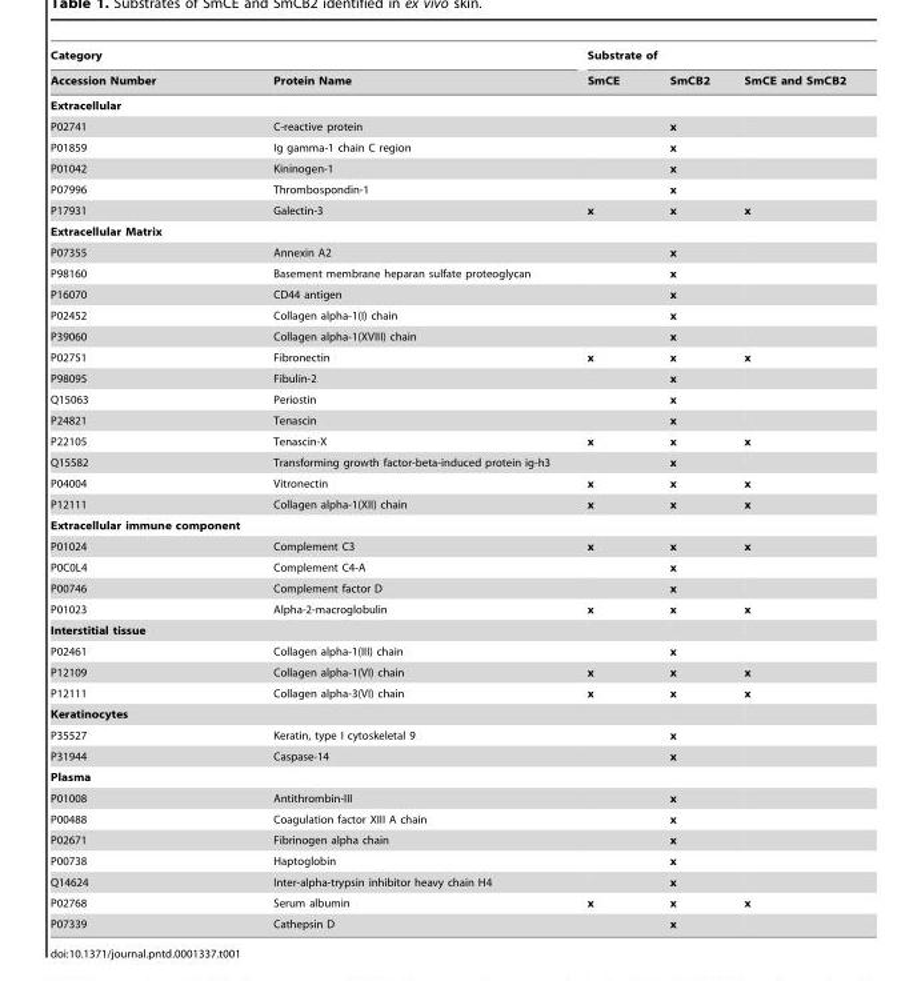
<table><thead><tr><td colspan="2">Category</td><td colspan="3">Substrate of</td></tr><tr><td>Accession Number</td><td>Protein Name</td><td>SmCE</td><td>SmCB2</td><td>SmCE and SmCB2</td></tr></thead><tbody><tr><td colspan="5">Extracellular</td></tr><tr><td>P02741</td><td>C-reactive protein</td><td></td><td>x</td><td></td></tr><tr><td>P01859</td><td>Ig gamma-1 chain C region</td><td></td><td>x</td><td></td></tr><tr><td>P01042</td><td>Kininogen-1</td><td></td><td>x</td><td></td></tr><tr><td>P07996</td><td>Thrombospondin-1</td><td></td><td>x</td><td></td></tr><tr><td>P17931</td><td>Galectin-3</td><td>x</td><td>x</td><td>x</td></tr><tr><td colspan="5">Extracellular Matrix</td></tr><tr><td>P07355</td><td>Annexin A2</td><td></td><td>x</td><td></td></tr><tr><td>P98160</td><td>Basement membrane heparan sulfate proteoglycan</td><td></td><td>x</td><td></td></tr><tr><td>P16070</td><td>CD44 antigen</td><td></td><td>x</td><td></td></tr><tr><td>P02452</td><td>Collagen alpha-1(I) chain</td><td></td><td>x</td><td></td></tr><tr><td>P39060</td><td>Collagen alpha-1(XVIII) chain</td><td></td><td>x</td><td></td></tr><tr><td>P02751</td><td>Fibronectin</td><td>x</td><td>x</td><td>x</td></tr><tr><td>P98095</td><td>Fibulin-2</td><td></td><td>x</td><td></td></tr><tr><td>Q15063</td><td>Periostin</td><td></td><td>x</td><td></td></tr><tr><td>P24821</td><td>Tenascin</td><td></td><td>x</td><td></td></tr><tr><td>P22105</td><td>Tenascin-X</td><td>x</td><td>x</td><td>x</td></tr><tr><td>Q15582</td><td>Transforming growth factor-beta-induced protein ig-h3</td><td></td><td>x</td><td></td></tr><tr><td>P04004</td><td>Vitronectin</td><td>x</td><td>x</td><td>x</td></tr><tr><td>P12111</td><td>Collagen alpha-1(XII) chain</td><td>x</td><td>x</td><td>x</td></tr><tr><td colspan="5">Extracellular immune component</td></tr><tr><td>P01024</td><td>Complement C3</td><td>x</td><td>x</td><td>x</td></tr><tr><td>P0C0L4</td><td>Complement C4-A</td><td></td><td>x</td><td></td></tr><tr><td>P00746</td><td>Complement factor D</td><td></td><td>x</td><td></td></tr><tr><td>P01023</td><td>Alpha-2-macroglobulin</td><td>x</td><td>x</td><td>x</td></tr><tr><td colspan="5">Interstitial tissue</td></tr><tr><td>P02461</td><td>Collagen alpha-1(III) chain</td><td></td><td>x</td><td></td></tr><tr><td>P12109</td><td>Collagen alpha-1(VI) chain</td><td>x</td><td>x</td><td>x</td></tr><tr><td>P12111</td><td>Collagen alpha-3(VI) chain</td><td>x</td><td>x</td><td>x</td></tr><tr><td colspan="5">Keratinocytes</td></tr><tr><td>P35527</td><td>Keratin, type I cytoskeletal 9</td><td></td><td>x</td><td></td></tr><tr><td>P31944</td><td>Caspase-14</td><td></td><td>x</td><td></td></tr><tr><td colspan="5">Plasma</td></tr><tr><td>P01008</td><td>Antithrombin-III</td><td></td><td>x</td><td></td></tr><tr><td>P00488</td><td>Coagulation factor XIII A chain</td><td></td><td>x</td><td></td></tr><tr><td>P02671</td><td>Fibrinogen alpha chain</td><td></td><td>x</td><td></td></tr><tr><td>P00738</td><td>Haptoglobin</td><td></td><td>x</td><td></td></tr><tr><td>Q14624</td><td>Inter-alpha-trypsin inhibitor heavy chain H4</td><td></td><td>x</td><td></td></tr><tr><td>P02768</td><td>Serum albumin</td><td>x</td><td>x</td><td>x</td></tr><tr><td>P07339</td><td>Cathepsin D</td><td></td><td>x</td><td></td></tr></tbody></table>